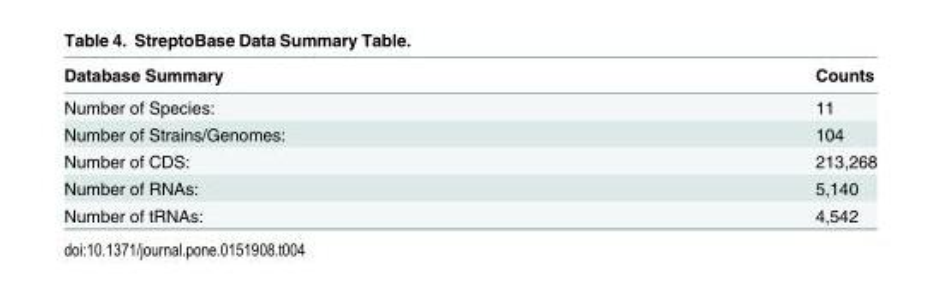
<table><thead><tr><td>Database Summary</td><td>Counts</td></tr></thead><tbody><tr><td>Number of Species:</td><td>11</td></tr><tr><td>Number of Strains/Genomes:</td><td>104</td></tr><tr><td>Number of CDS:</td><td>213,268</td></tr><tr><td>Number of RNAs:</td><td>5,140</td></tr><tr><td>Number of tRNAs:</td><td>4,542</td></tr></tbody></table>